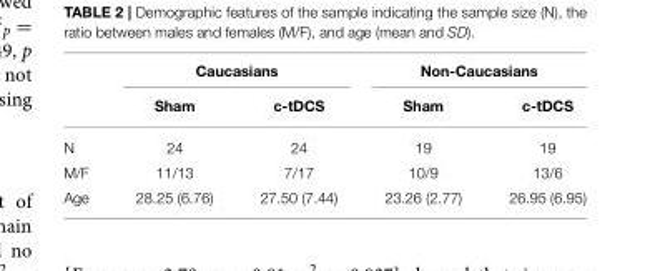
<table><thead><tr><td rowspan="2"></td><td colspan="2">Caucasians</td><td colspan="2">Non-Caucasians</td></tr><tr><td>Sham</td><td>c-tDCS</td><td>Sham</td><td>c-tDCS</td></tr></thead><tbody><tr><td>N</td><td>24</td><td>24</td><td>19</td><td>19</td></tr><tr><td>M/F</td><td>11/13</td><td>7/17</td><td>10/9</td><td>13/6</td></tr><tr><td>Age</td><td>28.25 (6.76)</td><td>27.50 (7.44)</td><td>23.26 (2.77)</td><td>26.95 (6.95)</td></tr></tbody></table>